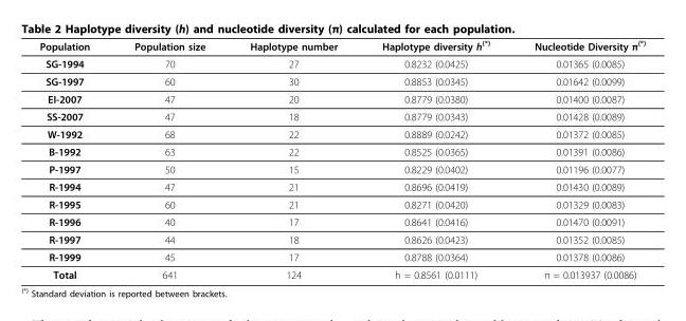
<table><thead><tr><td>Population</td><td>Population size</td><td>Haplotype number</td><td>Haplotype diversity h(*)</td><td>Nucleotide Diversity π(*)</td></tr></thead><tbody><tr><td>SG-1994</td><td>70</td><td>27</td><td>0.8232 (0.0425)</td><td>0.01365 (0.0085)</td></tr><tr><td>SG-1997</td><td>60</td><td>30</td><td>0.8853 (0.0345)</td><td>0.01642 (0.0099)</td></tr><tr><td>EI-2007</td><td>47</td><td>20</td><td>0.8779 (0.0380)</td><td>0.01400 (0.0087)</td></tr><tr><td>SS-2007</td><td>47</td><td>18</td><td>0.8779 (0.0343)</td><td>0.01428 (0.0089)</td></tr><tr><td>W-1992</td><td>68</td><td>22</td><td>0.8889 (0.0242)</td><td>0.01372 (0.0085)</td></tr><tr><td>B-1992</td><td>63</td><td>22</td><td>0.8525 (0.0365)</td><td>0.01391 (0.0086)</td></tr><tr><td>P-1997</td><td>50</td><td>15</td><td>0.8229 (0.0402)</td><td>0.01196 (0.0077)</td></tr><tr><td>R-1994</td><td>47</td><td>21</td><td>0.8696 (0.0419)</td><td>0.01430 (0.0089)</td></tr><tr><td>R-1995</td><td>60</td><td>21</td><td>0.8271 (0.0420)</td><td>0.01329 (0.0083)</td></tr><tr><td>R-1996</td><td>40</td><td>17</td><td>0.8641 (0.0416)</td><td>0.01470 (0.0091)</td></tr><tr><td>R-1997</td><td>44</td><td>18</td><td>0.8626 (0.0423)</td><td>0.01352 (0.0085)</td></tr><tr><td>R-1999</td><td>45</td><td>17</td><td>0.8788 (0.0364)</td><td>0.01378 (0.0086)</td></tr><tr><td>Total</td><td>641</td><td>124</td><td>h = 0.8561 (0.0111)</td><td>π = 0.013937 (0.0086)</td></tr></tbody></table>